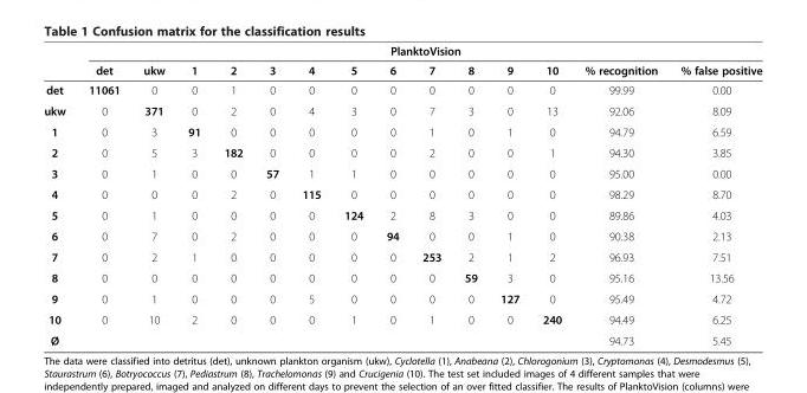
<table><thead><tr><td rowspan="2"></td><td colspan="14">PlanktoVision</td></tr><tr><td>det</td><td>ukw</td><td>1</td><td>2</td><td>3</td><td>4</td><td>5</td><td>6</td><td>7</td><td>8</td><td>9</td><td>10</td><td>% recognition</td><td>% false positive</td></tr></thead><tbody><tr><td>det</td><td>11061</td><td>0</td><td>0</td><td>1</td><td>0</td><td>0</td><td>0</td><td>0</td><td>0</td><td>0</td><td>0</td><td>0</td><td>99.99</td><td>0.00</td></tr><tr><td>ukw</td><td>0</td><td>371</td><td>0</td><td>2</td><td>0</td><td>4</td><td>3</td><td>0</td><td>7</td><td>3</td><td>0</td><td>13</td><td>92.06</td><td>8.09</td></tr><tr><td>1</td><td>0</td><td>3</td><td>91</td><td>0</td><td>0</td><td>0</td><td>0</td><td>0</td><td>1</td><td>0</td><td>1</td><td>0</td><td>94.79</td><td>6.59</td></tr><tr><td>2</td><td>0</td><td>5</td><td>3</td><td>182</td><td>0</td><td>0</td><td>0</td><td>0</td><td>2</td><td>0</td><td>0</td><td>1</td><td>94.30</td><td>3.85</td></tr><tr><td>3</td><td>0</td><td>1</td><td>0</td><td>0</td><td>57</td><td>1</td><td>1</td><td>0</td><td>0</td><td>0</td><td>0</td><td>0</td><td>95.00</td><td>0.00</td></tr><tr><td>4</td><td>0</td><td>0</td><td>0</td><td>2</td><td>0</td><td>115</td><td>0</td><td>0</td><td>0</td><td>0</td><td>0</td><td>0</td><td>98.29</td><td>8.70</td></tr><tr><td>5</td><td>0</td><td>1</td><td>0</td><td>0</td><td>0</td><td>0</td><td>124</td><td>2</td><td>8</td><td>3</td><td>0</td><td>0</td><td>89.86</td><td>4.03</td></tr><tr><td>6</td><td>0</td><td>7</td><td>0</td><td>2</td><td>0</td><td>0</td><td>0</td><td>94</td><td>0</td><td>0</td><td>1</td><td>0</td><td>90.38</td><td>2.13</td></tr><tr><td>7</td><td>0</td><td>2</td><td>1</td><td>0</td><td>0</td><td>0</td><td>0</td><td>0</td><td>253</td><td>2</td><td>1</td><td>2</td><td>96.93</td><td>7.51</td></tr><tr><td>8</td><td>0</td><td>0</td><td>0</td><td>0</td><td>0</td><td>0</td><td>0</td><td>0</td><td>0</td><td>59</td><td>3</td><td>0</td><td>95.16</td><td>13.56</td></tr><tr><td>9</td><td>0</td><td>1</td><td>0</td><td>0</td><td>0</td><td>5</td><td>0</td><td>0</td><td>0</td><td>0</td><td>127</td><td>0</td><td>95.49</td><td>4.72</td></tr><tr><td>10</td><td>0</td><td>10</td><td>2</td><td>0</td><td>0</td><td>0</td><td>1</td><td>0</td><td>1</td><td>0</td><td>0</td><td>240</td><td>94.49</td><td>6.25</td></tr><tr><td>Ø</td><td></td><td></td><td></td><td></td><td></td><td></td><td></td><td></td><td></td><td></td><td></td><td></td><td>94.73</td><td>5.45</td></tr></tbody></table>